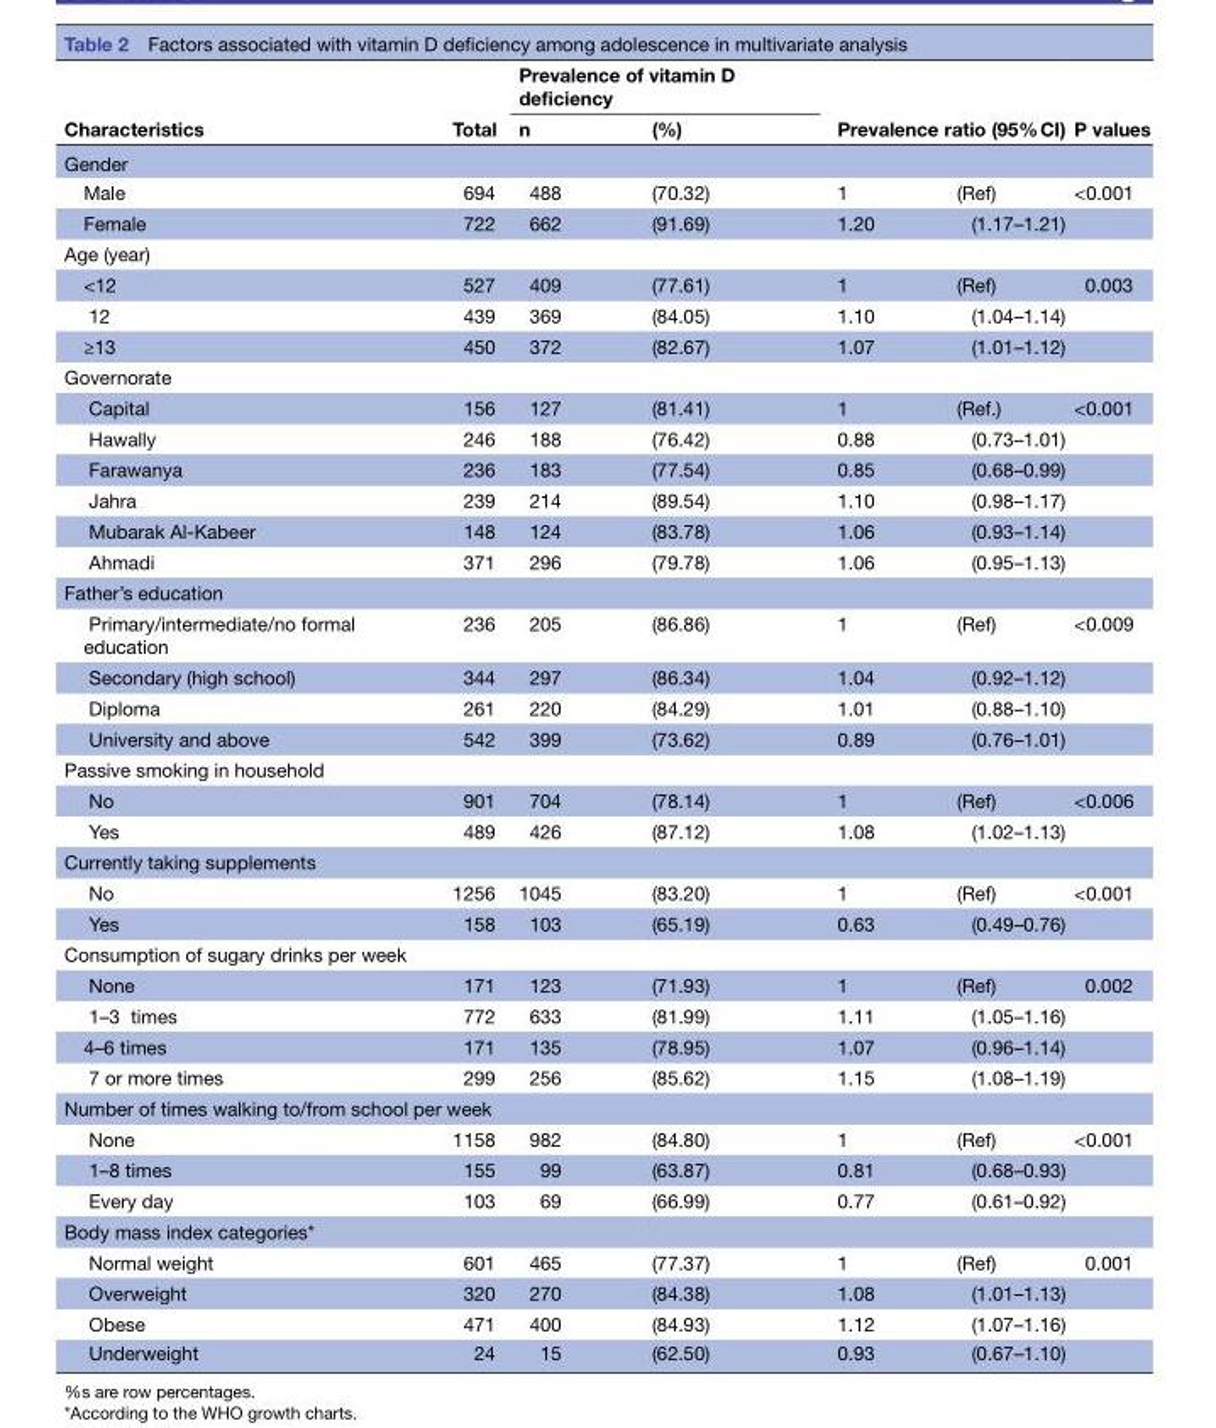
<table><thead><tr><td rowspan="2">Characteristics</td><td rowspan="2">Total</td><td colspan="2">Prevalence of vitamin D deficiency</td><td rowspan="2" colspan="2">Prevalence ratio (95% CI)</td><td rowspan="2">P values</td></tr><tr><td>n</td><td>(%)</td></tr><tr><td colspan="7">Gender</td></tr><tr><td>Male</td><td>694</td><td>488</td><td>(70.32)</td><td>1</td><td>(Ref)</td><td>&lt;0.001</td></tr></thead><tbody><tr><td>Female</td><td>722</td><td>662</td><td>(91.69)</td><td>1.20</td><td>(1.17–1.21)</td><td></td></tr><tr><td colspan="7">Age (year)</td></tr><tr><td>&lt;12</td><td>527</td><td>409</td><td>(77.61)</td><td>1</td><td>(Ref)</td><td>0.003</td></tr><tr><td>12</td><td>439</td><td>369</td><td>(84.05)</td><td>1.10</td><td>(1.04–1.14)</td><td></td></tr><tr><td>≥13</td><td>450</td><td>372</td><td>(82.67)</td><td>1.07</td><td>(1.01–1.12)</td><td></td></tr><tr><td colspan="7">Governorate</td></tr><tr><td>Capital</td><td>156</td><td>127</td><td>(81.41)</td><td>1</td><td>(Ref.)</td><td>&lt;0.001</td></tr><tr><td>Hawally</td><td>246</td><td>188</td><td>(76.42)</td><td>0.88</td><td>(0.73–1.01)</td><td></td></tr><tr><td>Farawanya</td><td>236</td><td>183</td><td>(77.54)</td><td>0.85</td><td>(0.68–0.99)</td><td></td></tr><tr><td>Jahra</td><td>239</td><td>214</td><td>(89.54)</td><td>1.10</td><td>(0.98–1.17)</td><td></td></tr><tr><td>Mubarak Al-Kabeer</td><td>148</td><td>124</td><td>(83.78)</td><td>1.06</td><td>(0.93–1.14)</td><td></td></tr><tr><td>Ahmadi</td><td>371</td><td>296</td><td>(79.78)</td><td>1.06</td><td>(0.95–1.13)</td><td></td></tr><tr><td colspan="7">Father’s education</td></tr><tr><td>Primary/intermediate/no formal education</td><td>236</td><td>205</td><td>(86.86)</td><td>1</td><td>(Ref)</td><td>&lt;0.009</td></tr><tr><td>Secondary (high school)</td><td>344</td><td>297</td><td>(86.34)</td><td>1.04</td><td>(0.92–1.12)</td><td></td></tr><tr><td>Diploma</td><td>261</td><td>220</td><td>(84.29)</td><td>1.01</td><td>(0.88–1.10)</td><td></td></tr><tr><td>University and above</td><td>542</td><td>399</td><td>(73.62)</td><td>0.89</td><td>(0.76–1.01)</td><td></td></tr><tr><td colspan="7">Passive smoking in household</td></tr><tr><td>No</td><td>901</td><td>704</td><td>(78.14)</td><td>1</td><td>(Ref)</td><td>&lt;0.006</td></tr><tr><td>Yes</td><td>489</td><td>426</td><td>(87.12)</td><td>1.08</td><td>(1.02–1.13)</td><td></td></tr><tr><td colspan="7">Currently taking supplements</td></tr><tr><td>No</td><td>1256</td><td>1045</td><td>(83.20)</td><td>1</td><td>(Ref)</td><td>&lt;0.001</td></tr><tr><td>Yes</td><td>158</td><td>103</td><td>(65.19)</td><td>0.63</td><td>(0.49–0.76)</td><td></td></tr><tr><td colspan="7">Consumption of sugary drinks per week</td></tr><tr><td>None</td><td>171</td><td>123</td><td>(71.93)</td><td>1</td><td>(Ref)</td><td>0.002</td></tr><tr><td>1–3 times</td><td>772</td><td>633</td><td>(81.99)</td><td>1.11</td><td>(1.05–1.16)</td><td></td></tr><tr><td>4–6 times</td><td>171</td><td>135</td><td>(78.95)</td><td>1.07</td><td>(0.96–1.14)</td><td></td></tr><tr><td>7 or more times</td><td>299</td><td>256</td><td>(85.62)</td><td>1.15</td><td>(1.08–1.19)</td><td></td></tr><tr><td colspan="7">Number of times walking to/from school per week</td></tr><tr><td>None</td><td>1158</td><td>982</td><td>(84.80)</td><td>1</td><td>(Ref)</td><td>&lt;0.001</td></tr><tr><td>1–8 times</td><td>155</td><td>99</td><td>(63.87)</td><td>0.81</td><td>(0.68–0.93)</td><td></td></tr><tr><td>Every day</td><td>103</td><td>69</td><td>(66.99)</td><td>0.77</td><td>(0.61–0.92)</td><td></td></tr><tr><td colspan="7">Body mass index categories*</td></tr><tr><td>Normal weight</td><td>601</td><td>465</td><td>(77.37)</td><td>1</td><td>(Ref)</td><td>0.001</td></tr><tr><td>Overweight</td><td>320</td><td>270</td><td>(84.38)</td><td>1.08</td><td>(1.01–1.13)</td><td></td></tr><tr><td>Obese</td><td>471</td><td>400</td><td>(84.93)</td><td>1.12</td><td>(1.07–1.16)</td><td></td></tr><tr><td>Underweight</td><td>24</td><td>15</td><td>(62.50)</td><td>0.93</td><td>(0.67–1.10)</td><td></td></tr></tbody></table>